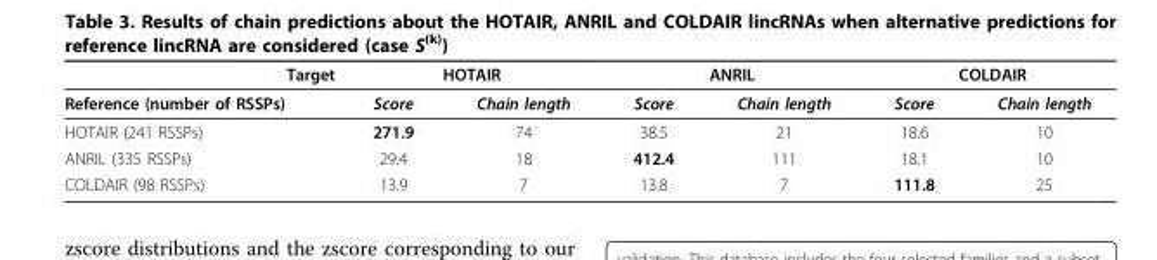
<table><thead><tr><td rowspan="2">Target Reference (number of RSSPs)</td><td colspan="2">HOTAIR</td><td colspan="2">ANRIL</td><td colspan="2">COLDAIR</td></tr><tr><td>Score</td><td>Chain length</td><td>Score</td><td>Chain length</td><td>Score</td><td>Chain length</td></tr></thead><tbody><tr><td>HOTAIR (241 RSSPs)</td><td>271.9</td><td>74</td><td>38.5</td><td>21</td><td>18.6</td><td>10</td></tr><tr><td>ANRIL (335 RSSPs)</td><td>29.4</td><td>18</td><td>412.4</td><td>111</td><td>18.1</td><td>10</td></tr><tr><td>COLDAIR (98 RSSPs)</td><td>13.9</td><td>7</td><td>13.8</td><td>7</td><td>111.8</td><td>25</td></tr></tbody></table>